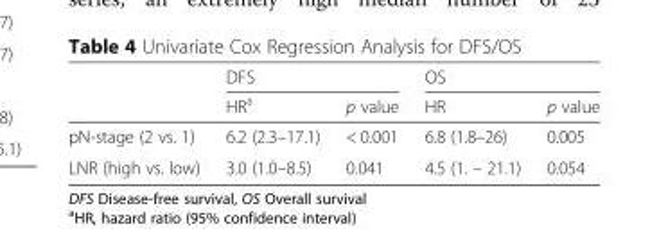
<table><thead><tr><td rowspan="2"></td><td colspan="2">DFS</td><td colspan="2">OS</td></tr><tr><td>HR<sup>a</sup></td><td>p value</td><td>HR</td><td>p value</td></tr></thead><tbody><tr><td>pN-stage (2 vs. 1)</td><td>6.2 (2.3–17.1)</td><td>&lt; 0.001</td><td>6.8 (1.8–26)</td><td>0.005</td></tr><tr><td>LNR (high vs. low)</td><td>3.0 (1.0–8.5)</td><td>0.041</td><td>4.5 (1. – 21.1)</td><td>0.054</td></tr></tbody></table>